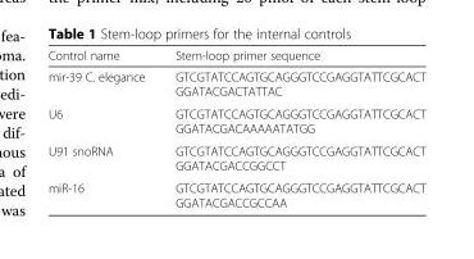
<table><thead><tr><td>Control name</td><td>Stem-loop primer sequence</td></tr></thead><tbody><tr><td>mir-39 C. elegance</td><td>GTCGTATCCAGTGCAGGGTCCGAGGTATTCGCACT GGATACGACTATTAC</td></tr><tr><td>U6</td><td>GTCGTATCCAGTGCAGGGTCCGAGGTATTCGCACT GGATACGACAAAAATATGG</td></tr><tr><td>U91 snoRNA</td><td>GTCGTATCCAGTGCAGGGTCCGAGGTATTCGCACT GGATACGACCGGCCT</td></tr><tr><td>miR-16</td><td>GTCGTATCCAGTGCAGGGTCCGAGGTATTCGCACT GGATACGACCGCCAA</td></tr></tbody></table>